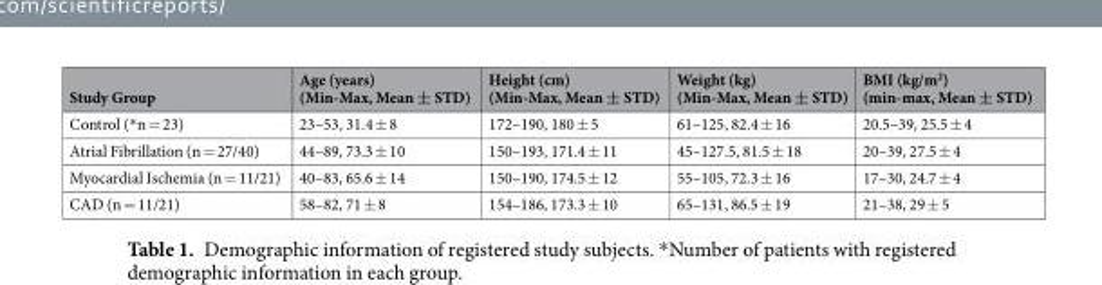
<table><thead><tr><td>Study Group</td><td>Age (years) (Min-Max, Mean ± STD)</td><td>Height (cm) (Min-Max, Mean ± STD)</td><td>Weight (kg) (Min-Max, Mean ± STD)</td><td>BMI (kg/m<sup>2</sup>) (min-max, Mean ± STD)</td></tr></thead><tbody><tr><td>Control (*n = 23)</td><td>23–53, 31.4 ± 8</td><td>172–190, 180 ± 5</td><td>61–125, 82.4 ± 16</td><td>20.5–39, 25.5 ± 4</td></tr><tr><td>Atrial Fibrillation (n = 27/40)</td><td>44–89, 73.3 ± 10</td><td>150–193, 171.4 ± 11</td><td>45–127.5, 81.5 ± 18</td><td>20–39, 27.5 ± 4</td></tr><tr><td>Myocardial Ischemia (n = 11/21)</td><td>40–83, 65.6 ± 14</td><td>150–190, 174.5 ± 12</td><td>55–105, 72.3 ± 16</td><td>17–30, 24.7 ± 4</td></tr><tr><td>CAD (n = 11/21)</td><td>58–82, 71 ± 8</td><td>154–186, 173.3 ± 10</td><td>65–131, 86.5 ± 19</td><td>21–38, 29 ± 5</td></tr></tbody></table>